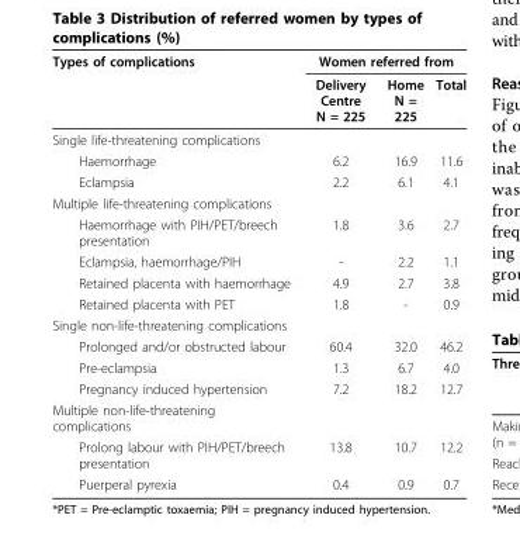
<table><thead><tr><td rowspan="2">Types of complications</td><td colspan="3">Women referred from</td></tr><tr><td>Delivery Centre N = 225</td><td>Home N = 225</td><td>Total</td></tr></thead><tbody><tr><td colspan="4">Single life-threatening complications</td></tr><tr><td>Haemorrhage</td><td>6.2</td><td>16.9</td><td>11.6</td></tr><tr><td>Eclampsia</td><td>2.2</td><td>6.1</td><td>4.1</td></tr><tr><td colspan="4">Multiple life-threatening complications</td></tr><tr><td>Haemorrhage with PIH/PET/breech presentation</td><td>1.8</td><td>3.6</td><td>2.7</td></tr><tr><td>Eclampsia, haemorrhage/PIH</td><td>-</td><td>2.2</td><td>1.1</td></tr><tr><td>Retained placenta with haemorrhage</td><td>4.9</td><td>2.7</td><td>3.8</td></tr><tr><td>Retained placenta with PET</td><td>1.8</td><td>-</td><td>0.9</td></tr><tr><td colspan="4">Single non-life-threatening complications</td></tr><tr><td>Prolonged and/or obstructed labour</td><td>60.4</td><td>32.0</td><td>46.2</td></tr><tr><td>Pre-eclampsia</td><td>1.3</td><td>6.7</td><td>4.0</td></tr><tr><td>Pregnancy induced hypertension</td><td>7.2</td><td>18.2</td><td>12.7</td></tr><tr><td colspan="4">Multiple non-life-threatening complications</td></tr><tr><td>Prolong labour with PIH/PET/breech presentation</td><td>13.8</td><td>10.7</td><td>12.2</td></tr><tr><td>Puerperal pyrexia</td><td>0.4</td><td>0.9</td><td>0.7</td></tr></tbody></table>